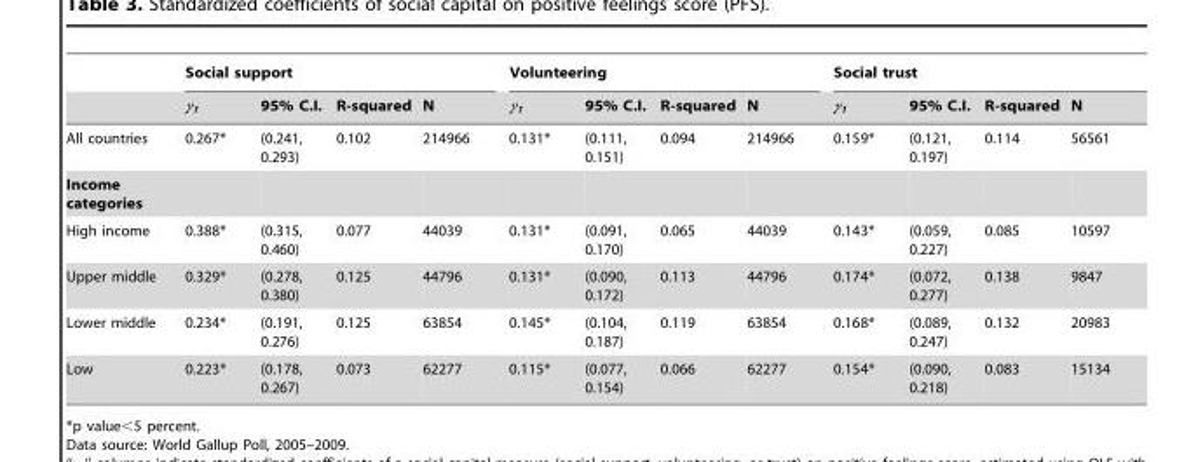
<table><thead><tr><td rowspan="2"></td><td colspan="4">Social support</td><td colspan="4">Volunteering</td><td colspan="4">Social trust</td></tr><tr><td>γ<sub>1</sub></td><td>95% C.I.</td><td>R-squared</td><td>N</td><td>γ<sub>1</sub></td><td>95% C.I.</td><td>R-squared</td><td>N</td><td>γ<sub>1</sub></td><td>95% C.I.</td><td>R-squared</td><td>N</td></tr></thead><tbody><tr><td>All countries</td><td>0.267*</td><td>(0.241, 0.293)</td><td>0.102</td><td>214966</td><td>0.131*</td><td>(0.111, 0.151)</td><td>0.094</td><td>214966</td><td>0.159*</td><td>(0.121, 0.197)</td><td>0.114</td><td>56561</td></tr><tr><td colspan="13">Income categories</td></tr><tr><td>High income</td><td>0.388*</td><td>(0.315, 0.460)</td><td>0.077</td><td>44039</td><td>0.131*</td><td>(0.091, 0.170)</td><td>0.065</td><td>44039</td><td>0.143*</td><td>(0.059, 0.227)</td><td>0.085</td><td>10597</td></tr><tr><td>Upper middle</td><td>0.329*</td><td>(0.278, 0.380)</td><td>0.125</td><td>44796</td><td>0.131*</td><td>(0.090, 0.172)</td><td>0.113</td><td>44796</td><td>0.174*</td><td>(0.072, 0.277)</td><td>0.138</td><td>9847</td></tr><tr><td>Lower middle</td><td>0.234*</td><td>(0.191, 0.276)</td><td>0.125</td><td>63854</td><td>0.145*</td><td>(0.104, 0.187)</td><td>0.119</td><td>63854</td><td>0.168*</td><td>(0.089, 0.247)</td><td>0.132</td><td>20983</td></tr><tr><td>Low</td><td>0.223*</td><td>(0.178, 0.267)</td><td>0.073</td><td>62277</td><td>0.115*</td><td>(0.077, 0.154)</td><td>0.066</td><td>62277</td><td>0.154*</td><td>(0.090, 0.218)</td><td>0.083</td><td>15134</td></tr></tbody></table>